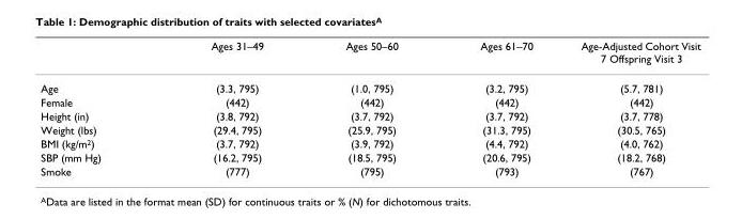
<table><thead><tr><td></td><td>Ages 31–49</td><td>Ages 50–60</td><td>Ages 61–70</td><td>Age-Adjusted Cohort Visit 7 Offspring Visit 3</td></tr></thead><tbody><tr><td>Age</td><td>(3.3, 795)</td><td>(1.0, 795)</td><td>(3.2, 795)</td><td>(5.7, 781)</td></tr><tr><td>Female</td><td>(442)</td><td>(442)</td><td>(442)</td><td>(442)</td></tr><tr><td>Height (in)</td><td>(3.8, 792)</td><td>(3.7, 792)</td><td>(3.7, 792)</td><td>(3.7, 778)</td></tr><tr><td>Weight (lbs)</td><td>(29.4, 795)</td><td>(25.9, 795)</td><td>(31.3, 795)</td><td>(30.5, 765)</td></tr><tr><td>BMI (kg/m2)</td><td>(3.7, 792)</td><td>(3.9, 792)</td><td>(4.4, 792)</td><td>(4.0, 762)</td></tr><tr><td>SBP (mm Hg)</td><td>(16.2, 795)</td><td>(18.5, 795)</td><td>(20.6, 795)</td><td>(18.2, 768)</td></tr><tr><td>Smoke</td><td>(777)</td><td>(795)</td><td>(793)</td><td>(767)</td></tr></tbody></table>